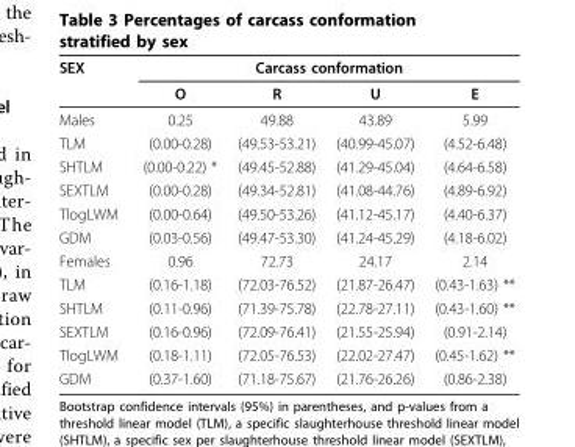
<table><thead><tr><td rowspan="2">SEX</td><td colspan="4">Carcass conformation</td></tr><tr><td>O</td><td>R</td><td>U</td><td>E</td></tr></thead><tbody><tr><td>Males</td><td>0.25</td><td>49.88</td><td>43.89</td><td>5.99</td></tr><tr><td>TLM</td><td>(0.00-0.28)</td><td>(49.53-53.21)</td><td>(40.99-45.07)</td><td>(4.52-6.48)</td></tr><tr><td>SHTLM</td><td>(0.00-0.22) *</td><td>(49.45-52.88)</td><td>(41.29-45.04)</td><td>(4.64-6.58)</td></tr><tr><td>SEXTLM</td><td>(0.00-0.28)</td><td>(49.34-52.81)</td><td>(41.08-44.76)</td><td>(4.89-6.92)</td></tr><tr><td>TlogLWM</td><td>(0.00-0.64)</td><td>(49.50-53.26)</td><td>(41.12-45.17)</td><td>(4.40-6.37)</td></tr><tr><td>GDM</td><td>(0.03-0.56)</td><td>(49.47-53.30)</td><td>(41.24-45.29)</td><td>(4.18-6.02)</td></tr><tr><td>Females</td><td>0.96</td><td>72.73</td><td>24.17</td><td>2.14</td></tr><tr><td>TLM</td><td>(0.16-1.18)</td><td>(72.03-76.52)</td><td>(21.87-26.47)</td><td>(0.43-1.63) **</td></tr><tr><td>SHTLM</td><td>(0.11-0.96)</td><td>(71.39-75.78)</td><td>(22.78-27.11)</td><td>(0.43-1.60) **</td></tr><tr><td>SEXTLM</td><td>(0.16-0.96)</td><td>(72.09-76.41)</td><td>(21.55-25.94)</td><td>(0.91-2.14)</td></tr><tr><td>TlogLWM</td><td>(0.18-1.11)</td><td>(72.05-76.53)</td><td>(22.02-27.47)</td><td>(0.45-1.62) **</td></tr><tr><td>GDM</td><td>(0.37-1.60)</td><td>(71.18-75.67)</td><td>(21.76-26.26)</td><td>(0.86-2.38)</td></tr></tbody></table>